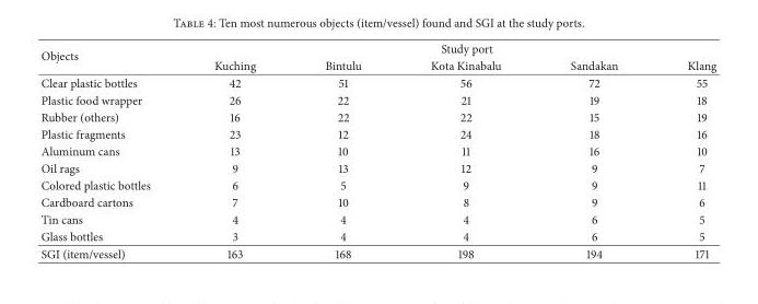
<table><thead><tr><td rowspan="2">Objects</td><td colspan="5">Study port</td></tr><tr><td>Kuching</td><td>Bintulu</td><td>Kota Kinabalu</td><td>Sandakan</td><td>Klang</td></tr></thead><tbody><tr><td>Clear plastic bottles</td><td>42</td><td>51</td><td>56</td><td>72</td><td>55</td></tr><tr><td>Plastic food wrapper</td><td>26</td><td>22</td><td>21</td><td>19</td><td>18</td></tr><tr><td>Rubber (others)</td><td>16</td><td>22</td><td>22</td><td>15</td><td>19</td></tr><tr><td>Plastic fragments</td><td>23</td><td>12</td><td>24</td><td>18</td><td>16</td></tr><tr><td>Aluminum cans</td><td>13</td><td>10</td><td>11</td><td>16</td><td>10</td></tr><tr><td>Oil rags</td><td>9</td><td>13</td><td>12</td><td>9</td><td>7</td></tr><tr><td>Colored plastic bottles</td><td>6</td><td>5</td><td>9</td><td>9</td><td>11</td></tr><tr><td>Cardboard cartons</td><td>7</td><td>10</td><td>8</td><td>9</td><td>6</td></tr><tr><td>Tin cans</td><td>4</td><td>4</td><td>4</td><td>6</td><td>5</td></tr><tr><td>Glass bottles</td><td>3</td><td>4</td><td>4</td><td>6</td><td>5</td></tr><tr><td>SGI (item/vessel)</td><td>163</td><td>168</td><td>198</td><td>194</td><td>171</td></tr></tbody></table>